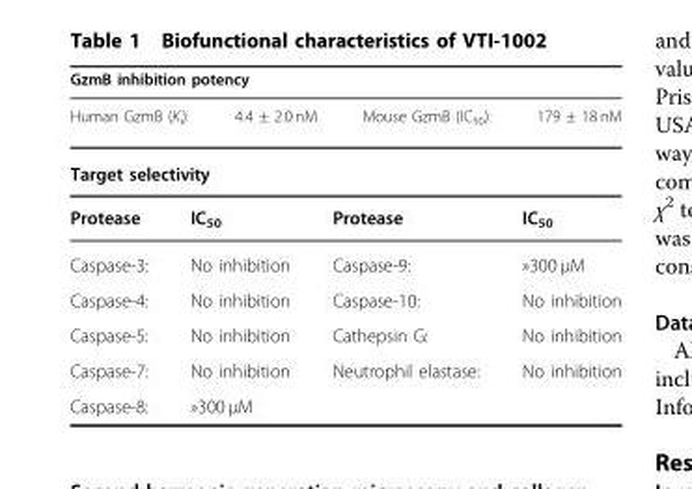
<table><thead><tr><td colspan="4">GzmB inhibition potency</td></tr><tr><td>Human GzmB (K<sub>i</sub>):</td><td>4.4 ± 2.0 nM</td><td>Mouse GzmB (IC<sub>50</sub>):</td><td>179 ± 18 nM</td></tr><tr><td colspan="4">Target selectivity</td></tr><tr><td>Protease</td><td>IC<sub>50</sub></td><td>Protease</td><td>IC<sub>50</sub></td></tr></thead><tbody><tr><td>Caspase-3:</td><td>No inhibition</td><td>Caspase-9:</td><td>»300 μM</td></tr><tr><td>Caspase-4:</td><td>No inhibition</td><td>Caspase-10:</td><td>No inhibition</td></tr><tr><td>Caspase-5:</td><td>No inhibition</td><td>Cathepsin G:</td><td>No inhibition</td></tr><tr><td>Caspase-7:</td><td>No inhibition</td><td>Neutrophil elastase:</td><td>No inhibition</td></tr><tr><td>Caspase-8:</td><td>»300 μM</td><td></td><td></td></tr></tbody></table>